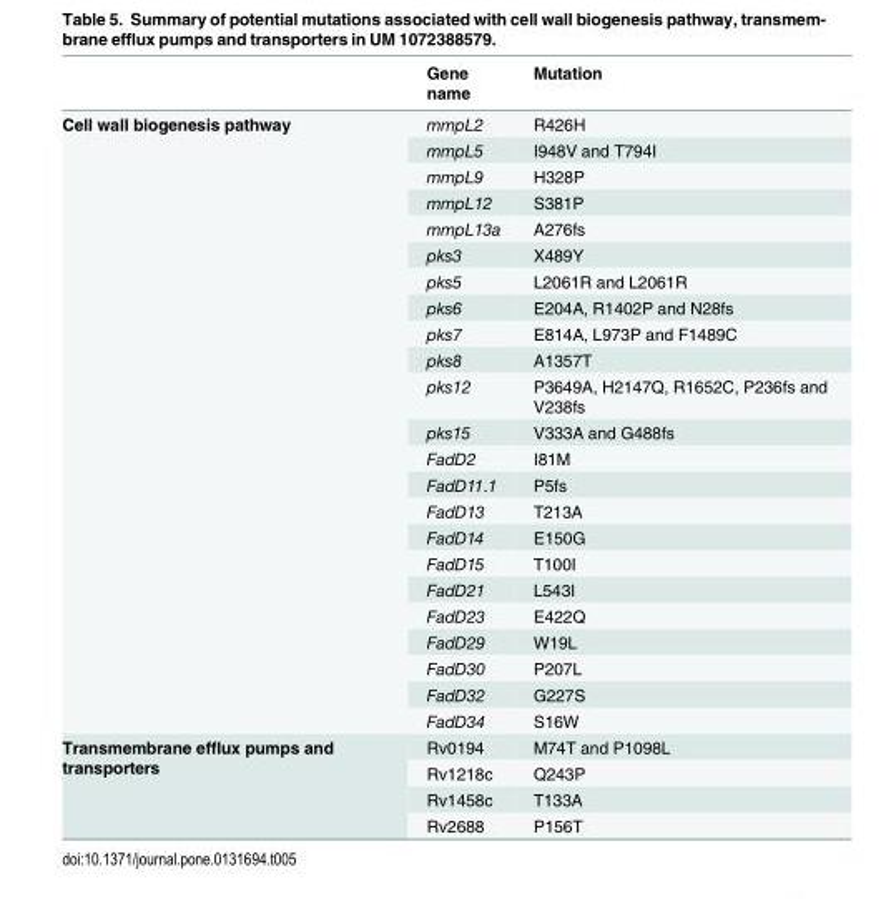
<table><thead><tr><td></td><td>Gene name</td><td>Mutation</td></tr></thead><tbody><tr><td rowspan="23">Cell wall biogenesis pathway</td><td>mmpL2</td><td>R426H</td></tr><tr><td>mmpL5</td><td>I948V and T794I</td></tr><tr><td>mmpL9</td><td>H328P</td></tr><tr><td>mmpL12</td><td>S381P</td></tr><tr><td>mmpL13a</td><td>A276fs</td></tr><tr><td>pks3</td><td>X489Y</td></tr><tr><td>pks5</td><td>L2061R and L2061R</td></tr><tr><td>pks6</td><td>E204A, R1402P and N28fs</td></tr><tr><td>pks7</td><td>E814A, L973P and F1489C</td></tr><tr><td>pks8</td><td>A1357T</td></tr><tr><td>pks12</td><td>P3649A, H2147Q, R1652C, P236fs and V238fs</td></tr><tr><td>pks15</td><td>V333A and G488fs</td></tr><tr><td>FadD2</td><td>I81M</td></tr><tr><td>FadD11.1</td><td>P5fs</td></tr><tr><td>FadD13</td><td>T213A</td></tr><tr><td>FadD14</td><td>E150G</td></tr><tr><td>FadD15</td><td>T100I</td></tr><tr><td>FadD21</td><td>L543I</td></tr><tr><td>FadD23</td><td>E422Q</td></tr><tr><td>FadD29</td><td>W19L</td></tr><tr><td>FadD30</td><td>P207L</td></tr><tr><td>FadD32</td><td>G227S</td></tr><tr><td>FadD34</td><td>S16W</td></tr><tr><td rowspan="4">Transmembrane efflux pumps and transporters</td><td>Rv0194</td><td>M74T and P1098L</td></tr><tr><td>Rv1218c</td><td>Q243P</td></tr><tr><td>Rv1458c</td><td>T133A</td></tr><tr><td>Rv2688</td><td>P156T</td></tr></tbody></table>